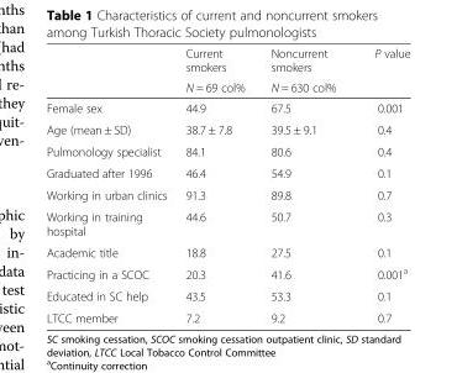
<table><thead><tr><td rowspan="2"></td><td rowspan="2">Current smokers N = 69 col%</td><td rowspan="2">Noncurrent smokers N = 630 col%</td><td rowspan="2">P value</td></tr><tr></tr></thead><tbody><tr><td>Female sex</td><td>44.9</td><td>67.5</td><td>0.001</td></tr><tr><td>Age (mean ± SD)</td><td>38.7 ± 7.8</td><td>39.5 ± 9.1</td><td>0.4</td></tr><tr><td>Pulmonology specialist</td><td>84.1</td><td>80.6</td><td>0.4</td></tr><tr><td>Graduated after 1996</td><td>46.4</td><td>54.9</td><td>0.1</td></tr><tr><td>Working in urban clinics</td><td>91.3</td><td>89.8</td><td>0.7</td></tr><tr><td>Working in training hospital</td><td>44.6</td><td>50.7</td><td>0.3</td></tr><tr><td>Academic title</td><td>18.8</td><td>27.5</td><td>0.1</td></tr><tr><td>Practicing in a SCOC</td><td>20.3</td><td>41.6</td><td>0.001<sup>a</sup></td></tr><tr><td>Educated in SC help</td><td>43.5</td><td>53.3</td><td>0.1</td></tr><tr><td>LTCC member</td><td>7.2</td><td>9.2</td><td>0.7</td></tr></tbody></table>